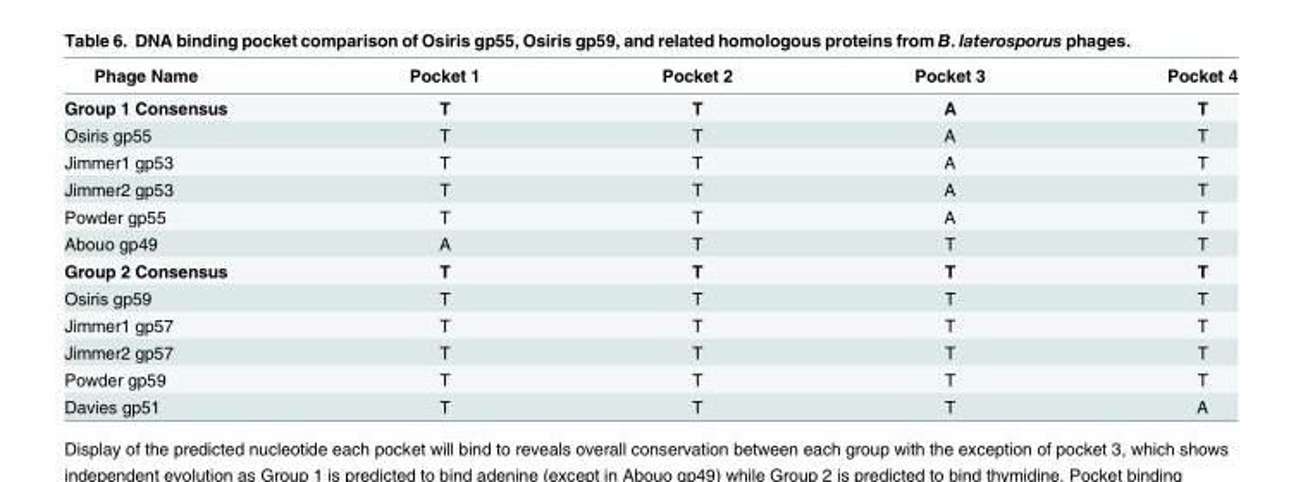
<table><thead><tr><td>Phage Name</td><td>Pocket 1</td><td>Pocket 2</td><td>Pocket 3</td><td>Pocket 4</td></tr></thead><tbody><tr><td>Group 1 Consensus</td><td>T</td><td>T</td><td>A</td><td>T</td></tr><tr><td>Osiris gp55</td><td>T</td><td>T</td><td>A</td><td>T</td></tr><tr><td>Jimmer1 gp53</td><td>T</td><td>T</td><td>A</td><td>T</td></tr><tr><td>Jimmer2 gp53</td><td>T</td><td>T</td><td>A</td><td>T</td></tr><tr><td>Powder gp55</td><td>T</td><td>T</td><td>A</td><td>T</td></tr><tr><td>Abouo gp49</td><td>A</td><td>T</td><td>T</td><td>T</td></tr><tr><td>Group 2 Consensus</td><td>T</td><td>T</td><td>T</td><td>T</td></tr><tr><td>Osiris gp59</td><td>T</td><td>T</td><td>T</td><td>T</td></tr><tr><td>Jimmer1 gp57</td><td>T</td><td>T</td><td>T</td><td>T</td></tr><tr><td>Jimmer2 gp57</td><td>T</td><td>T</td><td>T</td><td>T</td></tr><tr><td>Powder gp59</td><td>T</td><td>T</td><td>T</td><td>T</td></tr><tr><td>Davies gp51</td><td>T</td><td>T</td><td>T</td><td>A</td></tr></tbody></table>